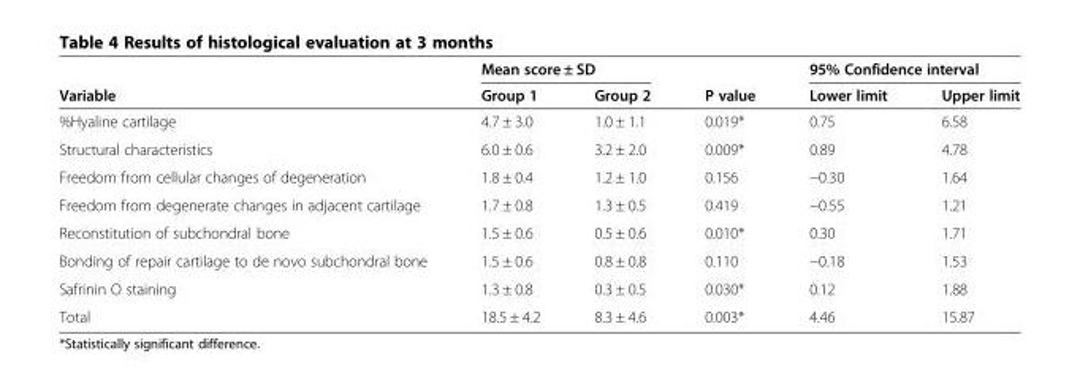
<table><thead><tr><td rowspan="2">Variable</td><td colspan="2">Mean score ± SD</td><td rowspan="2">P value</td><td colspan="2">95% Confidence interval</td></tr><tr><td>Group 1</td><td>Group 2</td><td>Lower limit</td><td>Upper limit</td></tr></thead><tbody><tr><td>%Hyaline cartilage</td><td>4.7 ± 3.0</td><td>1.0 ± 1.1</td><td>0.019*</td><td>0.75</td><td>6.58</td></tr><tr><td>Structural characteristics</td><td>6.0 ± 0.6</td><td>3.2 ± 2.0</td><td>0.009*</td><td>0.89</td><td>4.78</td></tr><tr><td>Freedom from cellular changes of degeneration</td><td>1.8 ± 0.4</td><td>1.2 ± 1.0</td><td>0.156</td><td>−0.30</td><td>1.64</td></tr><tr><td>Freedom from degenerate changes in adjacent cartilage</td><td>1.7 ± 0.8</td><td>1.3 ± 0.5</td><td>0.419</td><td>−0.55</td><td>1.21</td></tr><tr><td>Reconstitution of subchondral bone</td><td>1.5 ± 0.6</td><td>0.5 ± 0.6</td><td>0.010*</td><td>0.30</td><td>1.71</td></tr><tr><td>Bonding of repair cartilage to de novo subchondral bone</td><td>1.5 ± 0.6</td><td>0.8 ± 0.8</td><td>0.110</td><td>−0.18</td><td>1.53</td></tr><tr><td>Safrinin O staining</td><td>1.3 ± 0.8</td><td>0.3 ± 0.5</td><td>0.030*</td><td>0.12</td><td>1.88</td></tr><tr><td>Total</td><td>18.5 ± 4.2</td><td>8.3 ± 4.6</td><td>0.003*</td><td>4.46</td><td>15.87</td></tr></tbody></table>